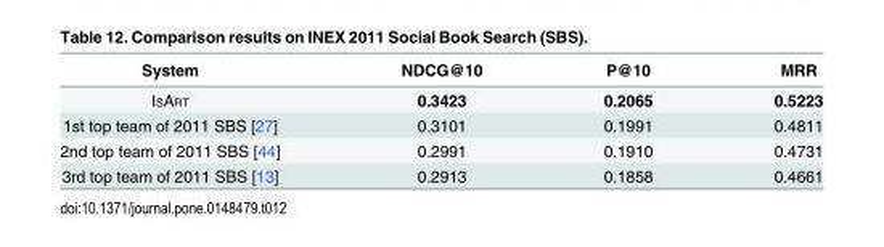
<table><thead><tr><td>System</td><td>NDCG@10</td><td>P@10</td><td>MRR</td></tr></thead><tbody><tr><td>ISART</td><td>0.3423</td><td>0.2065</td><td>0.5223</td></tr><tr><td>1st top team of 2011 SBS [27]</td><td>0.3101</td><td>0.1991</td><td>0.4811</td></tr><tr><td>2nd top team of 2011 SBS [44]</td><td>0.2991</td><td>0.1910</td><td>0.4731</td></tr><tr><td>3rd top team of 2011 SBS [13]</td><td>0.2913</td><td>0.1858</td><td>0.4661</td></tr></tbody></table>